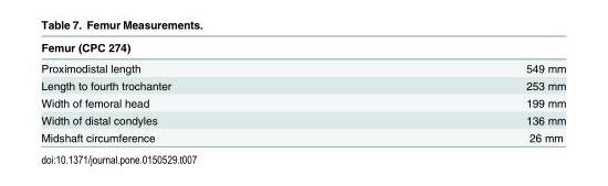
<table><thead><tr><td>Femur (CPC 274)</td><td></td></tr></thead><tbody><tr><td>Proximodistal length</td><td>549 mm</td></tr><tr><td>Length to fourth trochanter</td><td>253 mm</td></tr><tr><td>Width of femoral head</td><td>199 mm</td></tr><tr><td>Width of distal condyles</td><td>136 mm</td></tr><tr><td>Midshaft circumference</td><td>26 mm</td></tr></tbody></table>